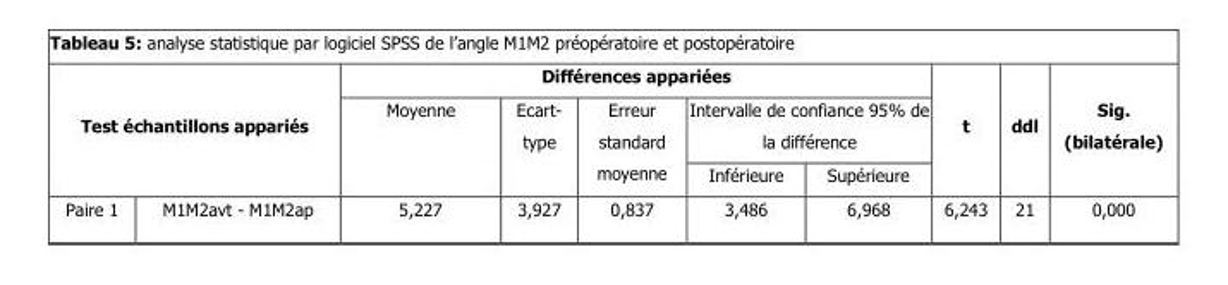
<table><thead><tr><td rowspan="3" colspan="2">Test échantillons appariés</td><td colspan="5">Différences appariées</td><td rowspan="4">t 6,243</td><td rowspan="4">ddl 21</td><td rowspan="4">Sig. (bilatérale) 0,000</td></tr><tr><td rowspan="3">Moyenne 5,227</td><td rowspan="3">Ecart- type 3,927</td><td rowspan="3">Erreur standard moyenne 0,837</td><td colspan="2">Intervalle de confiance 95% de la différence</td></tr><tr><td rowspan="2">Inférieure 3,486</td><td rowspan="2">Supérieure 6,968</td></tr><tr><td>Paire 1</td><td>M1M2avt - M1M2ap</td></tr></thead><tbody></tbody></table>